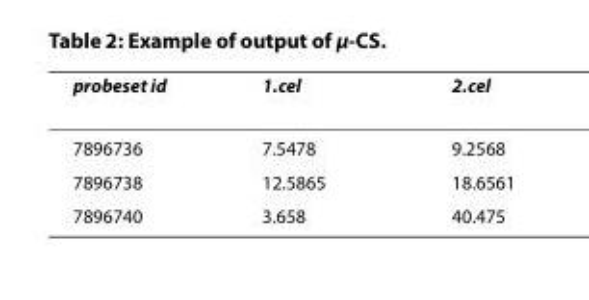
<table><thead><tr><td>probeset id</td><td>1.cel</td><td>2.cel</td></tr></thead><tbody><tr><td>7896736</td><td>7.5478</td><td>9.2568</td></tr><tr><td>7896738</td><td>12.5865</td><td>18.6561</td></tr><tr><td>7896740</td><td>3.658</td><td>40.475</td></tr></tbody></table>